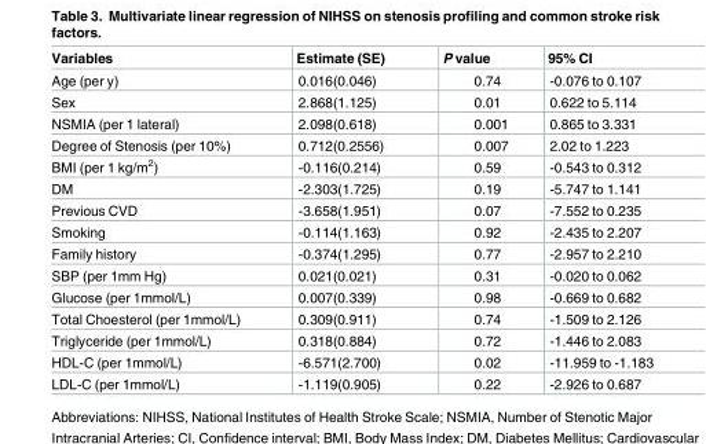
<table><thead><tr><td>Variables</td><td>Estimate (SE)</td><td>P value</td><td>95% CI</td></tr></thead><tbody><tr><td>Age (per y)</td><td>0.016(0.046)</td><td>0.74</td><td>-0.076 to 0.107</td></tr><tr><td>Sex</td><td>2.868(1.125)</td><td>0.01</td><td>0.622 to 5.114</td></tr><tr><td>NSMIA (per 1 lateral)</td><td>2.098(0.618)</td><td>0.001</td><td>0.865 to 3.331</td></tr><tr><td>Degree of Stenosis (per 10%)</td><td>0.712(0.2556)</td><td>0.007</td><td>2.02 to 1.223</td></tr><tr><td>BMI (per 1 kg/m<sup>2</sup>)</td><td>-0.116(0.214)</td><td>0.59</td><td>-0.543 to 0.312</td></tr><tr><td>DM</td><td>-2.303(1.725)</td><td>0.19</td><td>-5.747 to 1.141</td></tr><tr><td>Previous CVD</td><td>-3.658(1.951)</td><td>0.07</td><td>-7.552 to 0.235</td></tr><tr><td>Smoking</td><td>-0.114(1.163)</td><td>0.92</td><td>-2.435 to 2.207</td></tr><tr><td>Family history</td><td>-0.374(1.295)</td><td>0.77</td><td>-2.957 to 2.210</td></tr><tr><td>SBP (per 1mm Hg)</td><td>0.021(0.021)</td><td>0.31</td><td>-0.020 to 0.062</td></tr><tr><td>Glucose (per 1mmol/L)</td><td>0.007(0.339)</td><td>0.98</td><td>-0.669 to 0.682</td></tr><tr><td>Total Choesterol (per 1mmol/L)</td><td>0.309(0.911)</td><td>0.74</td><td>-1.509 to 2.126</td></tr><tr><td>Triglyceride (per 1mmol/L)</td><td>0.318(0.884)</td><td>0.72</td><td>-1.446 to 2.083</td></tr><tr><td>HDL-C (per 1mmol/L)</td><td>-6.571(2.700)</td><td>0.02</td><td>-11.959 to -1.183</td></tr><tr><td>LDL-C (per 1mmol/L)</td><td>-1.119(0.905)</td><td>0.22</td><td>-2.926 to 0.687</td></tr></tbody></table>